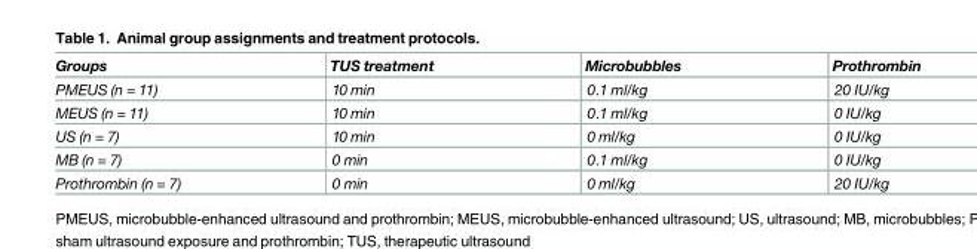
<table><thead><tr><td>Groups</td><td>TUS treatment</td><td>Microbubbles</td><td>Prothrombin</td></tr></thead><tbody><tr><td>PMEUS (n = 11)</td><td>10 min</td><td>0.1 ml/kg</td><td>20 IU/kg</td></tr><tr><td>MEUS (n = 11)</td><td>10 min</td><td>0.1 ml/kg</td><td>0 IU/kg</td></tr><tr><td>US (n = 7)</td><td>10 min</td><td>0 ml/kg</td><td>0 IU/kg</td></tr><tr><td>MB (n = 7)</td><td>0 min</td><td>0.1 ml/kg</td><td>0 IU/kg</td></tr><tr><td>Prothrombin (n = 7)</td><td>0 min</td><td>0 ml/kg</td><td>20 IU/kg</td></tr></tbody></table>